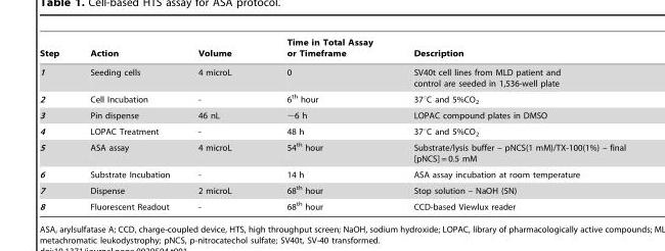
<table><thead><tr><td>Step</td><td>Action</td><td>Volume</td><td>Time in Total Assay or Timeframe</td><td>Description</td></tr></thead><tbody><tr><td>1</td><td>Seeding cells</td><td>4 microL</td><td>0</td><td>SV40t cell lines from MLD patient and control are seeded in 1,536-well plate</td></tr><tr><td>2</td><td>Cell Incubation</td><td>-</td><td>6<sup>th</sup> hour</td><td>37°C and 5%CO<sub>2</sub></td></tr><tr><td>3</td><td>Pin dispense</td><td>46 nL</td><td>∼6 h</td><td>LOPAC compound plates in DMSO</td></tr><tr><td>4</td><td>LOPAC Treatment</td><td>-</td><td>48 h</td><td>37°C and 5%CO<sub>2</sub></td></tr><tr><td>5</td><td>ASA assay</td><td>4 microL</td><td>54<sup>th</sup> hour</td><td>Substrate/lysis buffer – pNCS(1 mM)/TX-100(1%) – final [pNCS] = 0.5 mM</td></tr><tr><td>6</td><td>Substrate Incubation</td><td>-</td><td>14 h</td><td>ASA assay incubation at room temperature</td></tr><tr><td>7</td><td>Dispense</td><td>2 microL</td><td>68<sup>th</sup> hour</td><td>Stop solution – NaOH (5N)</td></tr><tr><td>8</td><td>Fluorescent Readout</td><td>-</td><td>68<sup>th</sup> hour</td><td>CCD-based Viewlux reader</td></tr></tbody></table>